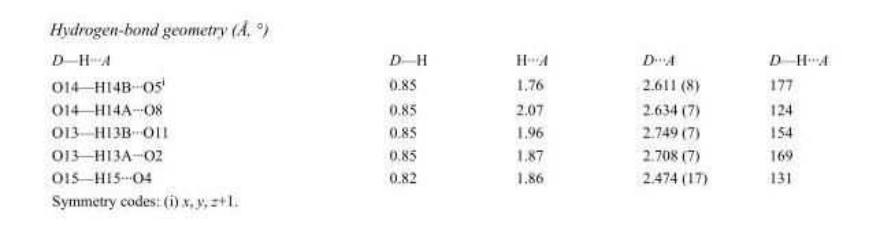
<table><tbody><tr><td>D—H···A</td><td>D—H</td><td>H···A</td><td>D···A</td><td>D—H···A</td></tr><tr><td>O14—H14B···O5<sup>i</sup></td><td>0.85</td><td>1.76</td><td>2.611 (8)</td><td>177</td></tr><tr><td>O14—H14A···O8</td><td>0.85</td><td>2.07</td><td>2.634 (7)</td><td>124</td></tr><tr><td>O13—H13B···O11</td><td>0.85</td><td>1.96</td><td>2.749 (7)</td><td>154</td></tr><tr><td>O13—H13A···O2</td><td>0.85</td><td>1.87</td><td>2.708 (7)</td><td>169</td></tr><tr><td>O15—H15···O4</td><td>0.82</td><td>1.86</td><td>2.474 (17)</td><td>131</td></tr></tbody></table>